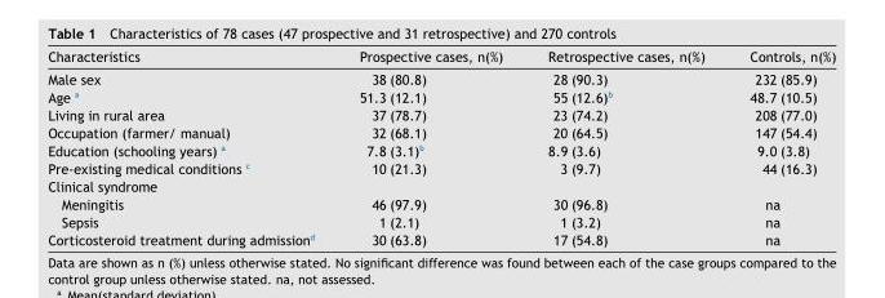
<table><thead><tr><td>Characteristics</td><td>Prospective cases, n(%)</td><td>Retrospective cases, n(%)</td><td>Controls, n(%)</td></tr></thead><tbody><tr><td>Male sex</td><td>38 (80.8)</td><td>28 (90.3)</td><td>232 (85.9)</td></tr><tr><td>Age a</td><td>51.3 (12.1)</td><td>55 (12.6)<sup>b</sup></td><td>48.7 (10.5)</td></tr><tr><td>Living in rural area</td><td>37 (78.7)</td><td>23 (74.2)</td><td>208 (77.0)</td></tr><tr><td>Occupation (farmer/ manual)</td><td>32 (68.1)</td><td>20 (64.5)</td><td>147 (54.4)</td></tr><tr><td>Education (schooling years) a</td><td>7.8 (3.1)<sup>b</sup></td><td>8.9 (3.6)</td><td>9.0 (3.8)</td></tr><tr><td>Pre-existing medical conditions c</td><td>10 (21.3)</td><td>3 (9.7)</td><td>44 (16.3)</td></tr><tr><td colspan="4">Clinical syndrome</td></tr><tr><td>Meningitis</td><td>46 (97.9)</td><td>30 (96.8)</td><td>na</td></tr><tr><td>Sepsis</td><td>1 (2.1)</td><td>1 (3.2)</td><td>na</td></tr><tr><td>Corticosteroid treatment during admission<sup>d</sup></td><td>30 (63.8)</td><td>17 (54.8)</td><td>na</td></tr></tbody></table>